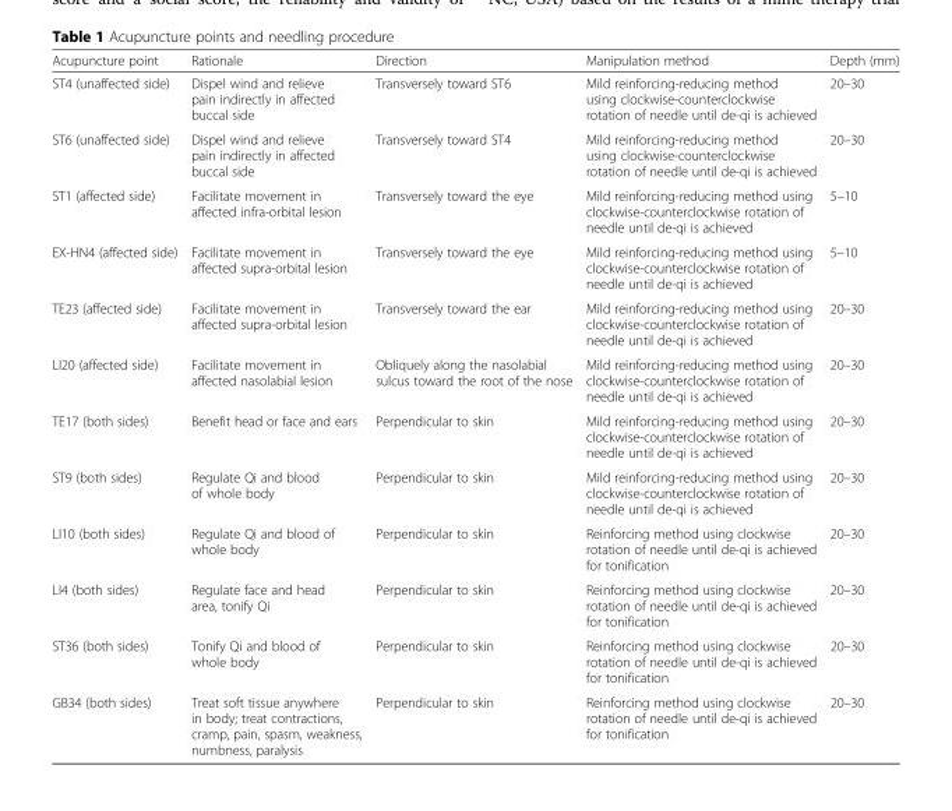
<table><thead><tr><td>Acupuncture point</td><td>Rationale</td><td>Direction</td><td>Manipulation method</td><td>Depth (mm)</td></tr></thead><tbody><tr><td>ST4 (unaffected side)</td><td>Dispel wind and relieve pain indirectly in affected buccal side</td><td>Transversely toward ST6</td><td>Mild reinforcing-reducing method using clockwise-counterclockwise rotation of needle until de-qi is achieved</td><td>20–30</td></tr><tr><td>ST6 (unaffected side)</td><td>Dispel wind and relieve pain indirectly in affected buccal side</td><td>Transversely toward ST4</td><td>Mild reinforcing-reducing method using clockwise-counterclockwise rotation of needle until de-qi is achieved</td><td>20–30</td></tr><tr><td>ST1 (affected side)</td><td>Facilitate movement in affected infra-orbital lesion</td><td>Transversely toward the eye</td><td>Mild reinforcing-reducing method using clockwise-counterclockwise rotation of needle until de-qi is achieved</td><td>5–10</td></tr><tr><td>EX-HN4 (affected side)</td><td>Facilitate movement in affected supra-orbital lesion</td><td>Transversely toward the eye</td><td>Mild reinforcing-reducing method using clockwise-counterclockwise rotation of needle until de-qi is achieved</td><td>5–10</td></tr><tr><td>TE23 (affected side)</td><td>Facilitate movement in affected supra-orbital lesion</td><td>Transversely toward the ear</td><td>Mild reinforcing-reducing method using clockwise-counterclockwise rotation of needle until de-qi is achieved</td><td>20–30</td></tr><tr><td>LI20 (affected side)</td><td>Facilitate movement in affected nasolabial lesion</td><td>Obliquely along the nasolabial sulcus toward the root of the nose</td><td>Mild reinforcing-reducing method using clockwise-counterclockwise rotation of needle until de-qi is achieved</td><td>20–30</td></tr><tr><td>TE17 (both sides)</td><td>Benefit head or face and ears</td><td>Perpendicular to skin</td><td>Mild reinforcing-reducing method using clockwise-counterclockwise rotation of needle until de-qi is achieved</td><td>20–30</td></tr><tr><td>ST9 (both sides)</td><td>Regulate Qi and blood of whole body</td><td>Perpendicular to skin</td><td>Mild reinforcing-reducing method using clockwise-counterclockwise rotation of needle until de-qi is achieved</td><td>20–30</td></tr><tr><td>LI10 (both sides)</td><td>Regulate Qi and blood of whole body</td><td>Perpendicular to skin</td><td>Reinforcing method using clockwise rotation of needle until de-qi is achieved for tonification</td><td>20–30</td></tr><tr><td>LI4 (both sides)</td><td>Regulate face and head area, tonify Qi</td><td>Perpendicular to skin</td><td>Reinforcing method using clockwise rotation of needle until de-qi is achieved for tonification</td><td>20–30</td></tr><tr><td>ST36 (both sides)</td><td>Tonify Qi and blood of whole body</td><td>Perpendicular to skin</td><td>Reinforcing method using clockwise rotation of needle until de-qi is achieved for tonification</td><td>20–30</td></tr><tr><td>GB34 (both sides)</td><td>Treat soft tissue anywhere in body; treat contractions, cramp, pain, spasm, weakness, numbness, paralysis</td><td>Perpendicular to skin</td><td>Reinforcing method using clockwise rotation of needle until de-qi is achieved for tonification</td><td>20–30</td></tr></tbody></table>